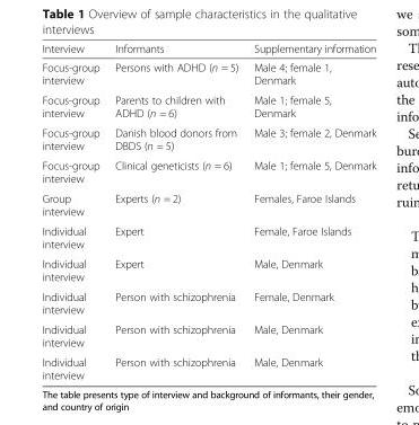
<table><thead><tr><td>Interview</td><td>Informants</td><td>Supplementary information</td></tr></thead><tbody><tr><td>Focus-group interview</td><td>Persons with ADHD (n = 5)</td><td>Male 4; female 1, Denmark</td></tr><tr><td>Focus-group interview</td><td>Parents to children with ADHD (n = 6)</td><td>Male 1; female 5, Denmark</td></tr><tr><td>Focus-group interview</td><td>Danish blood donors from DBDS (n = 5)</td><td>Male 3; female 2, Denmark</td></tr><tr><td>Focus-group interview</td><td>Clinical geneticists (n = 6)</td><td>Male 1; female 5, Denmark</td></tr><tr><td>Group interview</td><td>Experts (n = 2)</td><td>Females, Faroe Islands</td></tr><tr><td>Individual interview</td><td>Expert</td><td>Female, Faroe Islands</td></tr><tr><td>Individual interview</td><td>Expert</td><td>Male, Denmark</td></tr><tr><td>Individual interview</td><td>Person with schizophrenia</td><td>Female, Denmark</td></tr><tr><td>Individual interview</td><td>Person with schizophrenia</td><td>Male, Denmark</td></tr><tr><td>Individual interview</td><td>Person with schizophrenia</td><td>Male, Denmark</td></tr></tbody></table>